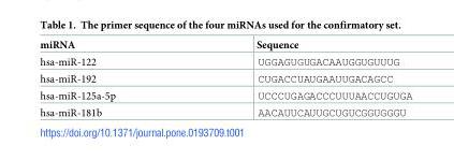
<table><thead><tr><td>miRNA</td><td>Sequence</td></tr></thead><tbody><tr><td>hsa-miR-122</td><td>UGGAGUGUGACAAUGGUGUUUG</td></tr><tr><td>hsa-miR-192</td><td>CUGACCUAUGAAUUGACAGCC</td></tr><tr><td>hsa-miR-125a-5p</td><td>UCCCUGAGACCCUUUAACCUGUGA</td></tr><tr><td>hsa-miR-181b</td><td>AACAUUCAUUGCUGUCGGUGGGU</td></tr></tbody></table>